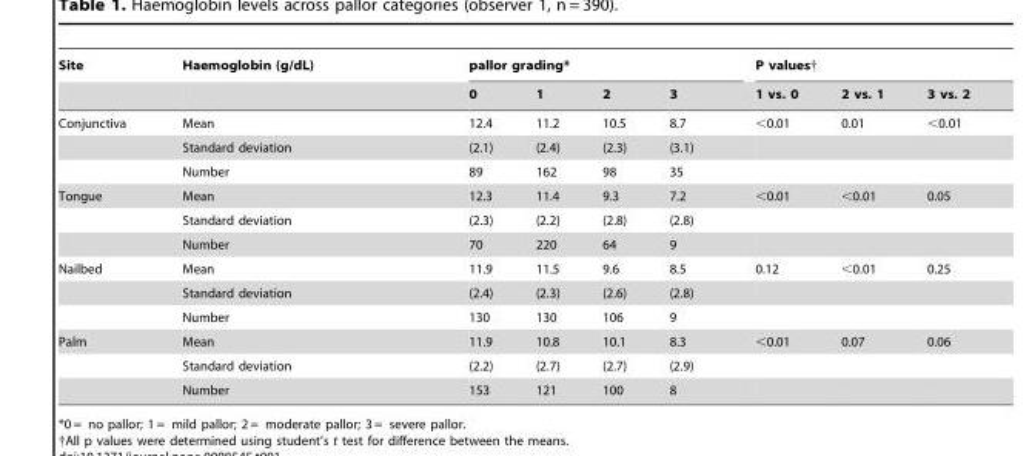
<table><thead><tr><td rowspan="2">Site</td><td rowspan="2">Haemoglobin (g/dL)</td><td colspan="4">pallor grading*</td><td colspan="3">P values†</td></tr><tr><td>0</td><td>1</td><td>2</td><td>3</td><td>1 vs. 0</td><td>2 vs. 1</td><td>3 vs. 2</td></tr></thead><tbody><tr><td rowspan="3">Conjunctiva</td><td>Mean</td><td>12.4</td><td>11.2</td><td>10.5</td><td>8.7</td><td>&lt;0.01</td><td>0.01</td><td>&lt;0.01</td></tr><tr><td>Standard deviation</td><td>(2.1)</td><td>(2.4)</td><td>(2.3)</td><td>(3.1)</td><td></td><td></td><td></td></tr><tr><td>Number</td><td>89</td><td>162</td><td>98</td><td>35</td><td></td><td></td><td></td></tr><tr><td rowspan="3">Tongue</td><td>Mean</td><td>12.3</td><td>11.4</td><td>9.3</td><td>7.2</td><td>&lt;0.01</td><td>&lt;0.01</td><td>0.05</td></tr><tr><td>Standard deviation</td><td>(2.3)</td><td>(2.2)</td><td>(2.8)</td><td>(2.8)</td><td></td><td></td><td></td></tr><tr><td>Number</td><td>70</td><td>220</td><td>64</td><td>9</td><td></td><td></td><td></td></tr><tr><td rowspan="3">Nailbed</td><td>Mean</td><td>11.9</td><td>11.5</td><td>9.6</td><td>8.5</td><td>0.12</td><td>&lt;0.01</td><td>0.25</td></tr><tr><td>Standard deviation</td><td>(2.4)</td><td>(2.3)</td><td>(2.6)</td><td>(2.8)</td><td></td><td></td><td></td></tr><tr><td>Number</td><td>130</td><td>130</td><td>106</td><td>9</td><td></td><td></td><td></td></tr><tr><td rowspan="3">Palm</td><td>Mean</td><td>11.9</td><td>10.8</td><td>10.1</td><td>8.3</td><td>&lt;0.01</td><td>0.07</td><td>0.06</td></tr><tr><td>Standard deviation</td><td>(2.2)</td><td>(2.7)</td><td>(2.7)</td><td>(2.9)</td><td></td><td></td><td></td></tr><tr><td>Number</td><td>153</td><td>121</td><td>100</td><td>8</td><td></td><td></td><td></td></tr></tbody></table>